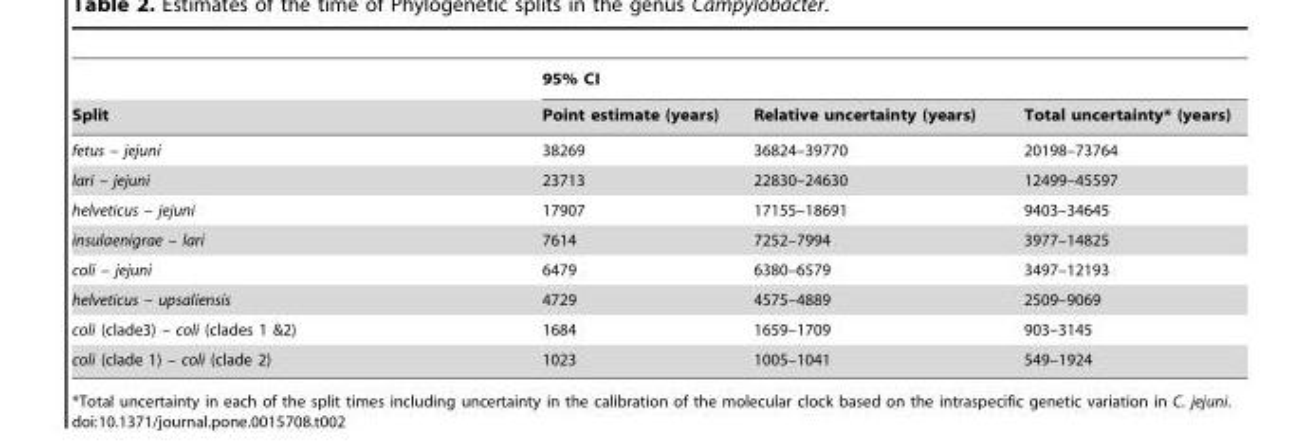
<table><thead><tr><td rowspan="2">Split</td><td colspan="3">95% CI</td></tr><tr><td>Point estimate (years)</td><td>Relative uncertainty (years)</td><td>Total uncertainty* (years)</td></tr></thead><tbody><tr><td>fetus – jejuni</td><td>38269</td><td>36824–39770</td><td>20198–73764</td></tr><tr><td>lari – jejuni</td><td>23713</td><td>22830–24630</td><td>12499–45597</td></tr><tr><td>helveticus – jejuni</td><td>17907</td><td>17155–18691</td><td>9403–34645</td></tr><tr><td>insulaenigrae – lari</td><td>7614</td><td>7252–7994</td><td>3977–14825</td></tr><tr><td>coli – jejuni</td><td>6479</td><td>6380–6579</td><td>3497–12193</td></tr><tr><td>helveticus – upsaliensis</td><td>4729</td><td>4575–4889</td><td>2509–9069</td></tr><tr><td>coli (clade3) – coli (clades 1 &amp;2)</td><td>1684</td><td>1659–1709</td><td>903–3145</td></tr><tr><td>coli (clade 1) – coli (clade 2)</td><td>1023</td><td>1005–1041</td><td>549–1924</td></tr></tbody></table>